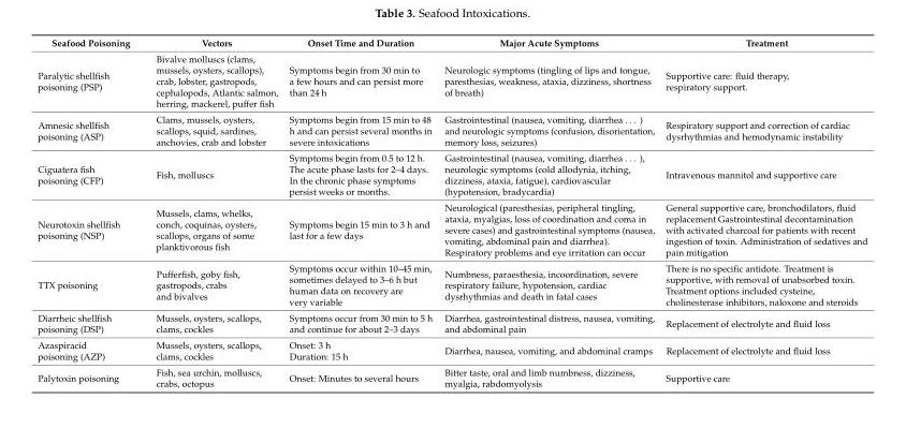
<table><thead><tr><td>Seafood Poisoning</td><td>Vectors</td><td>Onset Time and Duration</td><td>Major Acute Symptoms</td><td>Treatment</td></tr></thead><tbody><tr><td>Paralytic shellfish poisoning (PSP)</td><td>Bivalve molluscs (clams, mussels, oysters, scallops), crab, lobster, gastropods, cephalopods, Atlantic salmon, herring, mackerel, puffer fish</td><td>Symptoms begin from 30 min to a few hours and can persist more than 24 h</td><td>Neurologic symptoms (tingling of lips and tongue, paresthesias, weakness, ataxia, dizziness, shortness of breath)</td><td>Supportive care: fluid therapy, respiratory support.</td></tr><tr><td>Amnesic shellfish poisoning (ASP)</td><td>Clams, mussels, oysters, scallops, squid, sardines, anchovies, crab and lobster</td><td>Symptoms begin from 15 min to 48 h and can persist several months in severe intoxications</td><td>Gastrointestinal (nausea, vomiting, diarrhea . . . ) and neurologic symptoms (confusion, disorientation, memory loss, seizures)</td><td>Respiratory support and correction of cardiac dysrhythmias and hemodynamic instability</td></tr><tr><td>Ciguatera fish poisoning (CFP)</td><td>Fish, molluscs</td><td>Symptoms begin from 0.5 to 12 h. The acute phase lasts for 2–4 days. In the chronic phase symptoms persist weeks or months.</td><td>Gastrointestinal (nausea, vomiting, diarrhea . . . ), neurologic symptoms (cold allodynia, itching, dizziness, ataxia, fatigue), cardiovascular (hypotension, bradycardia)</td><td>Intravenous mannitol and supportive care</td></tr><tr><td>Neurotoxin shellfish poisoning (NSP)</td><td>Mussels, clams, whelks, conch, coquinas, oysters, scallops, organs of some planktivorous fish</td><td>Symptoms begin 15 min to 3 h and last for a few days</td><td>Neurological (paresthesias, peripheral tingling, ataxia, myalgias, loss of coordination and coma in severe cases) and gastrointestinal symptoms (nausea, vomiting, abdominal pain and diarrhea). Respiratory problems and eye irritation can occur</td><td>General supportive care, bronchodilators, fluid replacement Gastrointestinal decontamination with activated charcoal for patients with recent ingestion of toxin. Administration of sedatives and pain mitigation</td></tr><tr><td>TTX poisoning</td><td>Pufferfish, goby fish, gastropods, crabs and bivalves</td><td>Symptoms occur within 10–45 min, sometimes delayed to 3–6 h but human data on recovery are very variable</td><td>Numbness, paraesthesia, incoordination, severe respiratory failure, hypotension, cardiac dysrhythmias and death in fatal cases</td><td>There is no specific antidote. Treatment is supportive, with removal of unabsorbed toxin. Treatment options included cysteine, cholinesterase inhibitors, naloxone and steroids</td></tr><tr><td>Diarrheic shellfish poisoning (DSP)</td><td>Mussels, oysters, scallops, clams, cockles</td><td>Symptoms occur from 30 min to 5 h and continue for about 2–3 days</td><td>Diarrhea, gastrointestinal distress, nausea, vomiting, and abdominal pain</td><td>Replacement of electrolyte and fluid loss</td></tr><tr><td>Azaspiracid poisoning (AZP)</td><td>Mussels, oysters, scallops, clams, cockles</td><td>Onset: 3 h Duration: 15 h</td><td>Diarrhea, nausea, vomiting, and abdominal cramps</td><td>Replacement of electrolyte and fluid loss</td></tr><tr><td>Palytoxin poisoning</td><td>Fish, sea urchin, molluscs, crabs, octopus</td><td>Onset: Minutes to several hours</td><td>Bitter taste, oral and limb numbness, dizziness, myalgia, rabdomyolysis</td><td>Supportive care</td></tr></tbody></table>